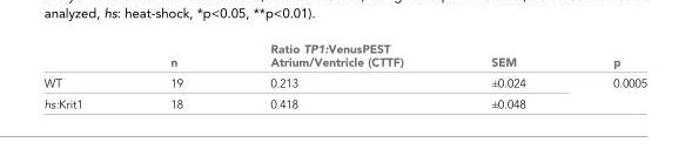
<table><thead><tr><td></td><td>n</td><td>Ratio TP1:VenusPEST Atrium/Ventricle (CTTF)</td><td>SEM</td><td>p</td></tr></thead><tbody><tr><td>WT</td><td>19</td><td>0.213</td><td>±0.024</td><td rowspan="2">0.0005</td></tr><tr><td>hs:Krit1</td><td>18</td><td>0.418</td><td>±0.048</td></tr></tbody></table>